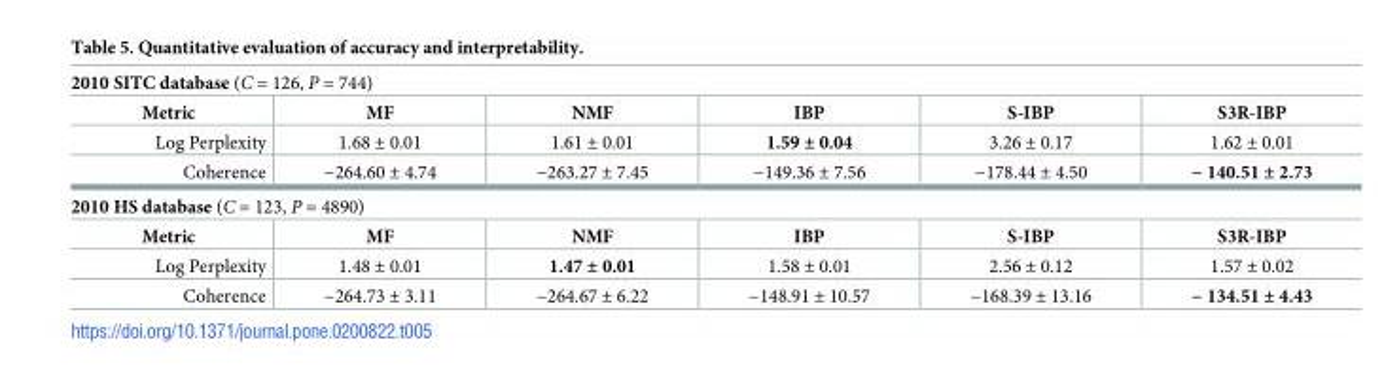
<table><tbody><tr><td colspan="6">2010 SITC database (C = 126, P = 744)</td></tr><tr><td>Metric</td><td>MF</td><td>NMF</td><td>IBP</td><td>S-IBP</td><td>S3R-IBP</td></tr><tr><td>Log Perplexity</td><td>1.68 ± 0.01</td><td>1.61 ± 0.01</td><td>1.59 ± 0.04</td><td>3.26 ± 0.17</td><td>1.62 ± 0.01</td></tr><tr><td>Coherence</td><td>−264.60 ± 4.74</td><td>−263.27 ± 7.45</td><td>−149.36 ± 7.56</td><td>−178.44 ± 4.50</td><td>− 140.51 ± 2.73</td></tr><tr><td colspan="6">2010 HS database (C = 123, P = 4890)</td></tr><tr><td>Metric</td><td>MF</td><td>NMF</td><td>IBP</td><td>S-IBP</td><td>S3R-IBP</td></tr><tr><td>Log Perplexity</td><td>1.48 ± 0.01</td><td>1.47 ± 0.01</td><td>1.58 ± 0.01</td><td>2.56 ± 0.12</td><td>1.57 ± 0.02</td></tr><tr><td>Coherence</td><td>−264.73 ± 3.11</td><td>−264.67 ± 6.22</td><td>−148.91 ± 10.57</td><td>−168.39 ± 13.16</td><td>− 134.51 ± 4.43</td></tr></tbody></table>